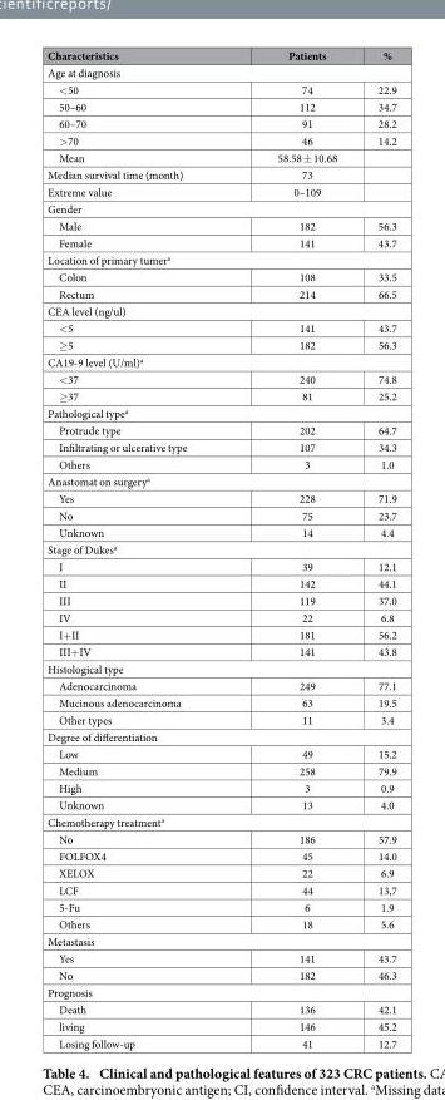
<table><thead><tr><td>Characteristics</td><td>Patients</td><td>%</td></tr></thead><tbody><tr><td colspan="3">Age at diagnosis</td></tr><tr><td>&lt; 50</td><td>74</td><td>22.9</td></tr><tr><td>50–60</td><td>112</td><td>34.7</td></tr><tr><td>60–70</td><td>91</td><td>28.2</td></tr><tr><td>&gt; 70</td><td>46</td><td>14.2</td></tr><tr><td>Mean</td><td>58.58 ± 10.68</td><td></td></tr><tr><td>Median survival time (month)</td><td>73</td><td></td></tr><tr><td>Extreme value</td><td>0–109</td><td></td></tr><tr><td colspan="3">Gender</td></tr><tr><td>Male</td><td>182</td><td>56.3</td></tr><tr><td>Female</td><td>141</td><td>43.7</td></tr><tr><td colspan="3">Location of primary tumer<sup>a</sup></td></tr><tr><td>Colon</td><td>108</td><td>33.5</td></tr><tr><td>Rectum</td><td>214</td><td>66.5</td></tr><tr><td colspan="3">CEA level (ng/ul)</td></tr><tr><td>&lt; 5</td><td>141</td><td>43.7</td></tr><tr><td>≥ 5</td><td>182</td><td>56.3</td></tr><tr><td colspan="3">CA19-9 level (U/ml)<sup>a</sup></td></tr><tr><td>&lt; 37</td><td>240</td><td>74.8</td></tr><tr><td>≥ 37</td><td>81</td><td>25.2</td></tr><tr><td colspan="3">Pathological type<sup>a</sup></td></tr><tr><td>Protrude type</td><td>202</td><td>64.7</td></tr><tr><td>Infiltrating or ulcerative type</td><td>107</td><td>34.3</td></tr><tr><td>Others</td><td>3</td><td>1.0</td></tr><tr><td colspan="3">Anastomat on surgery<sup>a</sup></td></tr><tr><td>Yes</td><td>228</td><td>71.9</td></tr><tr><td>No</td><td>75</td><td>23.7</td></tr><tr><td>Unknown</td><td>14</td><td>4.4</td></tr><tr><td colspan="3">Stage of Dukes<sup>a</sup></td></tr><tr><td>I</td><td>39</td><td>12.1</td></tr><tr><td>II</td><td>142</td><td>44.1</td></tr><tr><td>III</td><td>119</td><td>37.0</td></tr><tr><td>IV</td><td>22</td><td>6.8</td></tr><tr><td>I+ II</td><td>181</td><td>56.2</td></tr><tr><td>III+ IV</td><td>141</td><td>43.8</td></tr><tr><td colspan="3">Histological type</td></tr><tr><td>Adenocarcinoma</td><td>249</td><td>77.1</td></tr><tr><td>Mucinous adenocarcinoma</td><td>63</td><td>19.5</td></tr><tr><td>Other types</td><td>11</td><td>3.4</td></tr><tr><td colspan="3">Degree of differentiation</td></tr><tr><td>Low</td><td>49</td><td>15.2</td></tr><tr><td>Medium</td><td>258</td><td>79.9</td></tr><tr><td>High</td><td>3</td><td>0.9</td></tr><tr><td>Unknown</td><td>13</td><td>4.0</td></tr><tr><td colspan="3">Chemotherapy treatment<sup>a</sup></td></tr><tr><td>No</td><td>186</td><td>57.9</td></tr><tr><td>FOLFOX4</td><td>45</td><td>14.0</td></tr><tr><td>XELOX</td><td>22</td><td>6.9</td></tr><tr><td>LCF</td><td>44</td><td>13,7</td></tr><tr><td>5-Fu</td><td>6</td><td>1.9</td></tr><tr><td>Others</td><td>18</td><td>5.6</td></tr><tr><td colspan="3">Metastasis</td></tr><tr><td>Yes</td><td>141</td><td>43.7</td></tr><tr><td>No</td><td>182</td><td>46.3</td></tr><tr><td colspan="3">Prognosis</td></tr><tr><td>Death</td><td>136</td><td>42.1</td></tr><tr><td>living</td><td>146</td><td>45.2</td></tr><tr><td>Losing follow-up</td><td>41</td><td>12.7</td></tr></tbody></table>